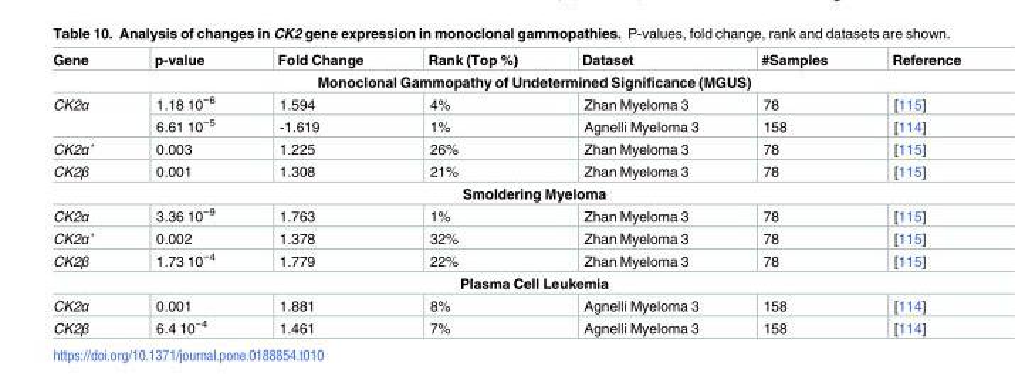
<table><thead><tr><td>Gene</td><td>p-value</td><td>Fold Change</td><td>Rank (Top %)</td><td>Dataset</td><td>#Samples</td><td>Reference</td></tr></thead><tbody><tr><td colspan="7">Monoclonal Gammopathy of Undetermined Significance (MGUS)</td></tr><tr><td rowspan="2">CK2α</td><td>1.18 10<sup>−6</sup></td><td>1.594</td><td>4%</td><td>Zhan Myeloma 3</td><td>78</td><td>[115]</td></tr><tr><td>6.61 10<sup>−5</sup></td><td>-1.619</td><td>1%</td><td>Agnelli Myeloma 3</td><td>158</td><td>[114]</td></tr><tr><td>CK2α’</td><td>0.003</td><td>1.225</td><td>26%</td><td>Zhan Myeloma 3</td><td>78</td><td>[115]</td></tr><tr><td>CK2β</td><td>0.001</td><td>1.308</td><td>21%</td><td>Zhan Myeloma 3</td><td>78</td><td>[115]</td></tr><tr><td colspan="7">Smoldering Myeloma</td></tr><tr><td>CK2α</td><td>3.36 10<sup>−9</sup></td><td>1.763</td><td>1%</td><td>Zhan Myeloma 3</td><td>78</td><td>[115]</td></tr><tr><td>CK2α’</td><td>0.002</td><td>1.378</td><td>32%</td><td>Zhan Myeloma 3</td><td>78</td><td>[115]</td></tr><tr><td>CK2β</td><td>1.73 10<sup>−4</sup></td><td>1.779</td><td>22%</td><td>Zhan Myeloma 3</td><td>78</td><td>[115]</td></tr><tr><td colspan="7">Plasma Cell Leukemia</td></tr><tr><td>CK2α</td><td>0.001</td><td>1.881</td><td>8%</td><td>Agnelli Myeloma 3</td><td>158</td><td>[114]</td></tr><tr><td>CK2β</td><td>6.4 10<sup>−4</sup></td><td>1.461</td><td>7%</td><td>Agnelli Myeloma 3</td><td>158</td><td>[114]</td></tr></tbody></table>